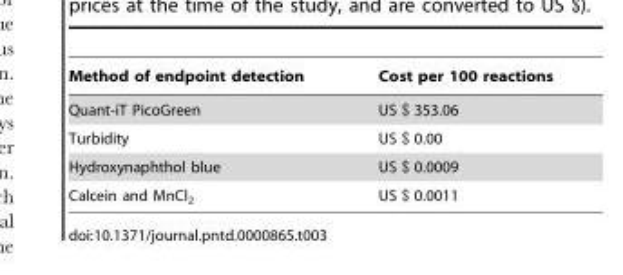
<table><thead><tr><td>Method of endpoint detection</td><td>Cost per 100 reactions</td></tr></thead><tbody><tr><td>Quant-iT PicoGreen</td><td>US $ 353.06</td></tr><tr><td>Turbidity</td><td>US $ 0.00</td></tr><tr><td>Hydroxynaphthol blue</td><td>US $ 0.0009</td></tr><tr><td>Calcein and MnCl<sub>2</sub></td><td>US $ 0.0011</td></tr></tbody></table>